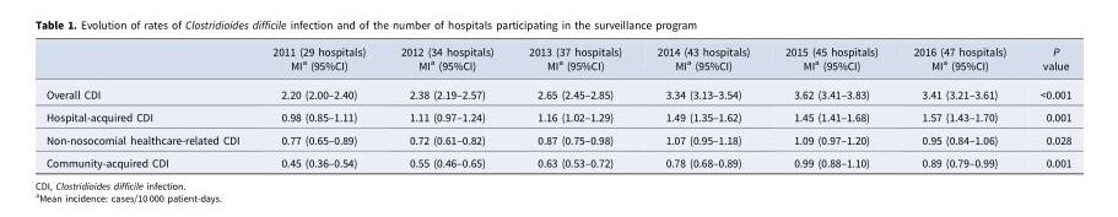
<table><thead><tr><td></td><td>2011 (29 hospitals) MI<sup>a</sup> (95%CI)</td><td>2012 (34 hospitals) MI<sup>a</sup> (95%CI)</td><td>2013 (37 hospitals) MI<sup>a</sup> (95%CI)</td><td>2014 (43 hospitals) MI<sup>a</sup> (95%CI)</td><td>2015 (45 hospitals) MI<sup>a</sup> (95%CI)</td><td>2016 (47 hospitals) MI<sup>a</sup> (95%CI)</td><td>P value</td></tr></thead><tbody><tr><td>Overall CDI</td><td>2.20 (2.00–2.40)</td><td>2.38 (2.19–2.57)</td><td>2.65 (2.45–2.85)</td><td>3.34 (3.13–3.54)</td><td>3.62 (3.41–3.83)</td><td>3.41 (3.21–3.61)</td><td>&lt;0.001</td></tr><tr><td>Hospital-acquired CDI</td><td>0.98 (0.85–1.11)</td><td>1.11 (0.97–1.24)</td><td>1.16 (1.02–1.29)</td><td>1.49 (1.35–1.62)</td><td>1.45 (1.41–1.68)</td><td>1.57 (1.43–1.70)</td><td>0.001</td></tr><tr><td>Non-nosocomial healthcare-related CDI</td><td>0.77 (0.65–0.89)</td><td>0.72 (0.61–0.82)</td><td>0.87 (0.75–0.98)</td><td>1.07 (0.95–1.18)</td><td>1.09 (0.97–1.20)</td><td>0.95 (0.84–1.06)</td><td>0.028</td></tr><tr><td>Community-acquired CDI</td><td>0.45 (0.36–0.54)</td><td>0.55 (0.46–0.65)</td><td>0.63 (0.53–0.72)</td><td>0.78 (0.68–0.89)</td><td>0.99 (0.88–1.10)</td><td>0.89 (0.79–0.99)</td><td>0.001</td></tr></tbody></table>